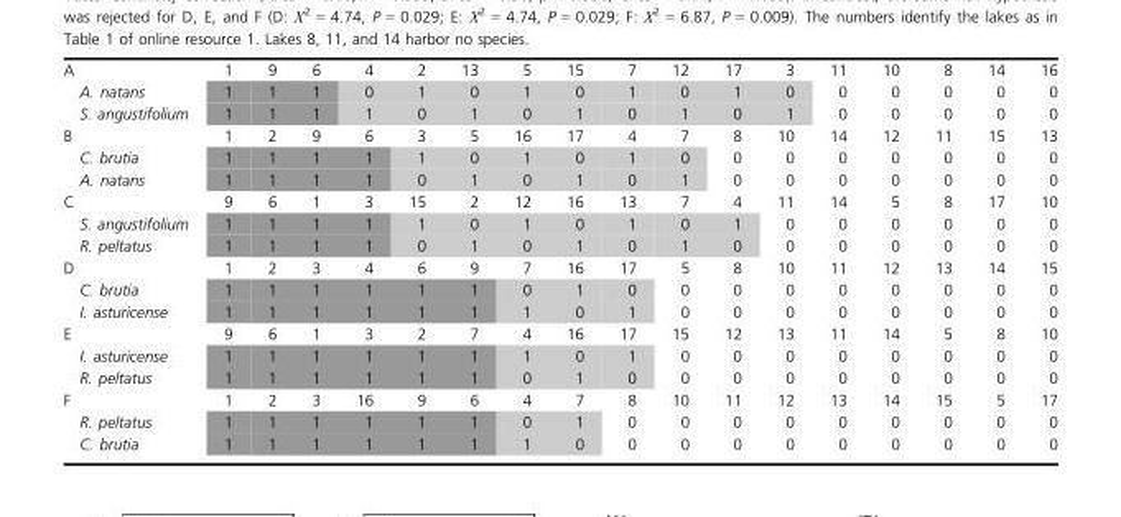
<table><tbody><tr><td>A</td><td>1</td><td>9</td><td>6</td><td>4</td><td>2</td><td>13</td><td>5</td><td>15</td><td>7</td><td>12</td><td>17</td><td>3</td><td>11</td><td>10</td><td>8</td><td>14</td><td>16</td></tr><tr><td>A. natans</td><td>1</td><td>1</td><td>1</td><td>0</td><td>1</td><td>0</td><td>1</td><td>0</td><td>1</td><td>0</td><td>1</td><td>0</td><td>0</td><td>0</td><td>0</td><td>0</td><td>0</td></tr><tr><td>S. angustifolium</td><td>1</td><td>1</td><td>1</td><td>1</td><td>0</td><td>1</td><td>0</td><td>1</td><td>0</td><td>1</td><td>0</td><td>1</td><td>0</td><td>0</td><td>0</td><td>0</td><td>0</td></tr><tr><td>B</td><td>1</td><td>2</td><td>9</td><td>6</td><td>3</td><td>5</td><td>16</td><td>17</td><td>4</td><td>7</td><td>8</td><td>10</td><td>14</td><td>12</td><td>11</td><td>15</td><td>13</td></tr><tr><td>C. brutia</td><td>1</td><td>1</td><td>1</td><td>1</td><td>1</td><td>0</td><td>1</td><td>0</td><td>1</td><td>0</td><td>0</td><td>0</td><td>0</td><td>0</td><td>0</td><td>0</td><td>0</td></tr><tr><td>A. natans</td><td>1</td><td>1</td><td>1</td><td>1</td><td>0</td><td>1</td><td>0</td><td>1</td><td>0</td><td>1</td><td>0</td><td>0</td><td>0</td><td>0</td><td>0</td><td>0</td><td>0</td></tr><tr><td>C</td><td>9</td><td>6</td><td>1</td><td>3</td><td>15</td><td>2</td><td>12</td><td>16</td><td>13</td><td>7</td><td>4</td><td>11</td><td>14</td><td>5</td><td>8</td><td>17</td><td>10</td></tr><tr><td>S. angustifolium</td><td>1</td><td>1</td><td>1</td><td>1</td><td>1</td><td>0</td><td>1</td><td>0</td><td>1</td><td>0</td><td>1</td><td>0</td><td>0</td><td>0</td><td>0</td><td>0</td><td>0</td></tr><tr><td>R. peltatus</td><td>1</td><td>1</td><td>1</td><td>1</td><td>0</td><td>1</td><td>0</td><td>1</td><td>0</td><td>1</td><td>0</td><td>0</td><td>0</td><td>0</td><td>0</td><td>0</td><td>0</td></tr><tr><td>D</td><td>1</td><td>2</td><td>3</td><td>4</td><td>6</td><td>9</td><td>7</td><td>16</td><td>17</td><td>5</td><td>8</td><td>10</td><td>11</td><td>12</td><td>13</td><td>14</td><td>15</td></tr><tr><td>C. brutia</td><td>1</td><td>1</td><td>1</td><td>1</td><td>1</td><td>1</td><td>0</td><td>1</td><td>0</td><td>0</td><td>0</td><td>0</td><td>0</td><td>0</td><td>0</td><td>0</td><td>0</td></tr><tr><td>I. asturicense</td><td>1</td><td>1</td><td>1</td><td>1</td><td>1</td><td>1</td><td>1</td><td>0</td><td>1</td><td>0</td><td>0</td><td>0</td><td>0</td><td>0</td><td>0</td><td>0</td><td>0</td></tr><tr><td>E</td><td>9</td><td>6</td><td>1</td><td>3</td><td>2</td><td>7</td><td>4</td><td>16</td><td>17</td><td>15</td><td>12</td><td>13</td><td>11</td><td>14</td><td>5</td><td>8</td><td>10</td></tr><tr><td>I. asturicense</td><td>1</td><td>1</td><td>1</td><td>1</td><td>1</td><td>1</td><td>1</td><td>0</td><td>1</td><td>0</td><td>0</td><td>0</td><td>0</td><td>0</td><td>0</td><td>0</td><td>0</td></tr><tr><td>R. peltatus</td><td>1</td><td>1</td><td>1</td><td>1</td><td>1</td><td>1</td><td>0</td><td>1</td><td>0</td><td>0</td><td>0</td><td>0</td><td>0</td><td>0</td><td>0</td><td>0</td><td>0</td></tr><tr><td>F</td><td>1</td><td>2</td><td>3</td><td>16</td><td>9</td><td>6</td><td>4</td><td>7</td><td>8</td><td>10</td><td>11</td><td>12</td><td>13</td><td>14</td><td>15</td><td>5</td><td>17</td></tr><tr><td>R. peltatus</td><td>1</td><td>1</td><td>1</td><td>1</td><td>1</td><td>1</td><td>0</td><td>1</td><td>0</td><td>0</td><td>0</td><td>0</td><td>0</td><td>0</td><td>0</td><td>0</td><td>0</td></tr><tr><td>C. brutia</td><td>1</td><td>1</td><td>1</td><td>1</td><td>1</td><td>1</td><td>1</td><td>0</td><td>0</td><td>0</td><td>0</td><td>0</td><td>0</td><td>0</td><td>0</td><td>0</td><td>0</td></tr></tbody></table>